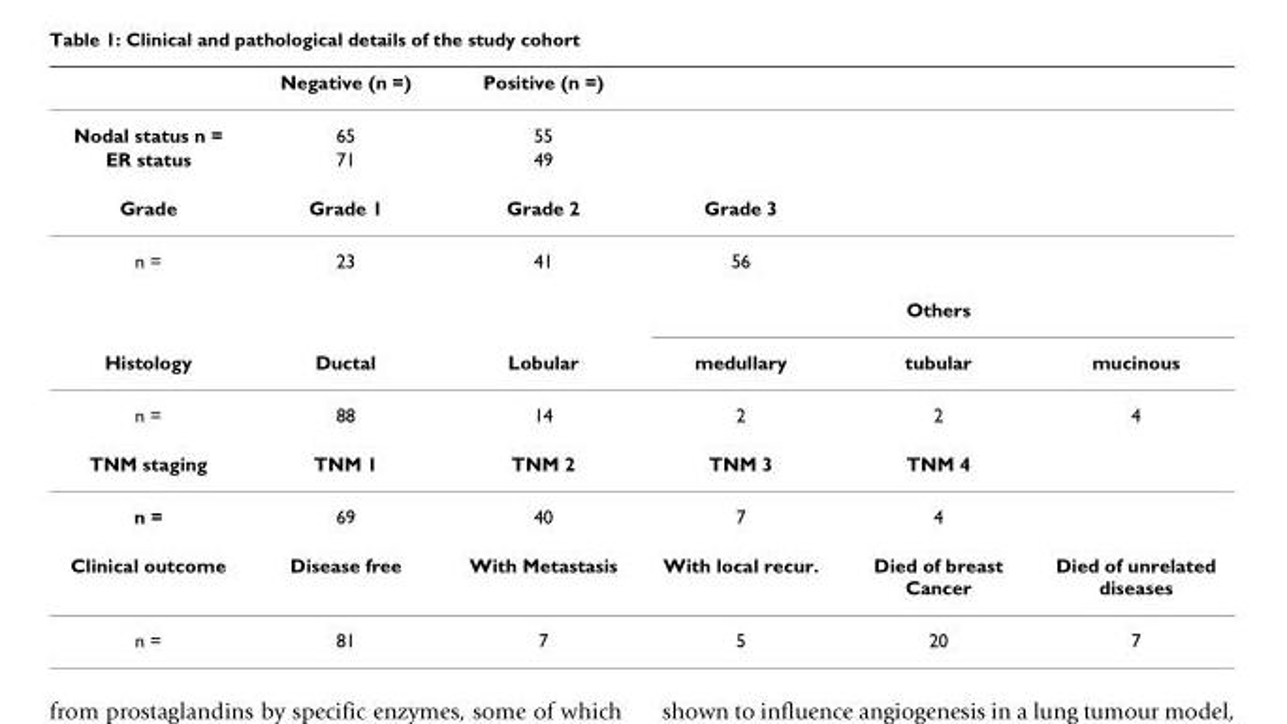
<table><thead><tr><td></td><td>Negative (n =)</td><td>Positive (n =)</td><td></td><td></td><td></td></tr></thead><tbody><tr><td>Nodal status n =</td><td>65</td><td>55</td><td></td><td></td><td></td></tr><tr><td>ER status</td><td>71</td><td>49</td><td></td><td></td><td></td></tr><tr><td>Grade</td><td>Grade 1</td><td>Grade 2</td><td>Grade 3</td><td></td><td></td></tr><tr><td rowspan="2">n =</td><td>23</td><td>41</td><td>56</td><td></td><td></td></tr><tr><td></td><td></td><td colspan="3">Others</td></tr><tr><td>Histology</td><td>Ductal</td><td>Lobular</td><td>medullary</td><td>tubular</td><td>mucinous</td></tr><tr><td>n =</td><td>88</td><td>14</td><td>2</td><td>2</td><td>4</td></tr><tr><td>TNM staging</td><td>TNM 1</td><td>TNM 2</td><td>TNM 3</td><td>TNM 4</td><td></td></tr><tr><td>n =</td><td>69</td><td>40</td><td>7</td><td>4</td><td></td></tr><tr><td>Clinical outcome</td><td>Disease free</td><td>With Metastasis</td><td>With local recur.</td><td>Died of breast Cancer</td><td>Died of unrelated diseases</td></tr><tr><td>n =</td><td>81</td><td>7</td><td>5</td><td>20</td><td>7</td></tr></tbody></table>